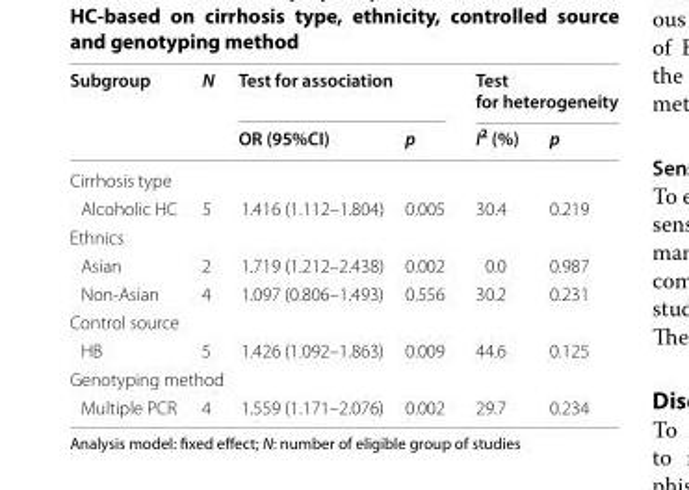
<table><thead><tr><td rowspan="2">Subgroup</td><td rowspan="2">N</td><td colspan="2">Test for association</td><td colspan="2">Test for heterogeneity</td></tr><tr><td>OR (95%CI)</td><td>p</td><td>I<sup>2</sup> (%)</td><td>p</td></tr></thead><tbody><tr><td colspan="6">Cirrhosis type</td></tr><tr><td>Alcoholic HC</td><td>5</td><td>1.416 (1.112–1.804)</td><td>0.005</td><td>30.4</td><td>0.219</td></tr><tr><td colspan="6">Ethnics</td></tr><tr><td>Asian</td><td>2</td><td>1.719 (1.212–2.438)</td><td>0.002</td><td>0.0</td><td>0.987</td></tr><tr><td>Non-Asian</td><td>4</td><td>1.097 (0.806–1.493)</td><td>0.556</td><td>30.2</td><td>0.231</td></tr><tr><td colspan="6">Control source</td></tr><tr><td>HB</td><td>5</td><td>1.426 (1.092–1.863)</td><td>0.009</td><td>44.6</td><td>0.125</td></tr><tr><td colspan="6">Genotyping method</td></tr><tr><td>Multiple PCR</td><td>4</td><td>1.559 (1.171–2.076)</td><td>0.002</td><td>29.7</td><td>0.234</td></tr></tbody></table>